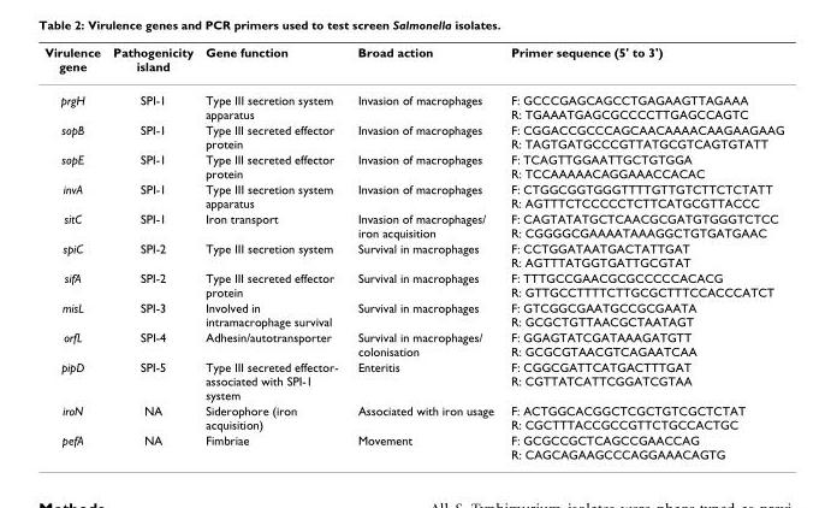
<table><thead><tr><td>Virulence gene</td><td>Pathogenicity island</td><td>Gene function</td><td>Broad action</td><td>Primer sequence (5&#x27; to 3&#x27;)</td></tr></thead><tbody><tr><td>prgH</td><td>SPI-1</td><td>Type III secretion system apparatus</td><td>Invasion of macrophages</td><td>F: GCCCGAGCAGCCTGAGAAGTTAGAAA R: TGAAATGAGCGCCCCTTGAGCCAGTC</td></tr><tr><td>sopB</td><td>SPI-1</td><td>Type III secreted effector protein</td><td>Invasion of macrophages</td><td>F: CGGACCGCCCAGCAACAAAACAAGAAGAAG R: TAGTGATGCCCGTTATGCGTCAGTGTATT</td></tr><tr><td>sopE</td><td>SPI-1</td><td>Type III secreted effector protein</td><td>Invasion of macrophages</td><td>F: TCAGTTGGAATTGCTGTGGA R: TCCAAAAACAGGAAACCACAC</td></tr><tr><td>invA</td><td>SPI-1</td><td>Type III secretion system apparatus</td><td>Invasion of macrophages</td><td>F: CTGGCGGTGGGTTTTGTTGTCTTCTCTATT R: AGTTTCTCCCCCTCTTCATGCGTTACCC</td></tr><tr><td>sitC</td><td>SPI-1</td><td>Iron transport</td><td>Invasion of macrophages/ iron acquisition</td><td>F: CAGTATATGCTCAACGCGATGTGGGTCTCC R: CGGGGCGAAAATAAAGGCTGTGATGAAC</td></tr><tr><td>spiC</td><td>SPI-2</td><td>Type III secretion system</td><td>Survival in macrophages</td><td>F: CCTGGATAATGACTATTGAT R: AGTTTATGGTGATTGCGTAT</td></tr><tr><td>sifA</td><td>SPI-2</td><td>Type III secreted effector protein</td><td>Survival in macrophages</td><td>F: TTTGCCGAACGCGCCCCCACACG R: GTTGCCTTTTCTTGCGCTTTCCACCCATCT</td></tr><tr><td>misL</td><td>SPI-3</td><td>Involved in intramacrophage survival</td><td>Survival in macrophages</td><td>F: GTCGGCGAATGCCGCGAATA R: GCGCTGTTAACGCTAATAGT</td></tr><tr><td>orfL</td><td>SPI-4</td><td>Adhesin/autotransporter</td><td>Survival in macrophages/ colonisation</td><td>F: GGAGTATCGATAAAGATGTT R: GCGCGTAACGTCAGAATCAA</td></tr><tr><td>pipD</td><td>SPI-5</td><td>Type III secreted effector- associated with SPI-1 system</td><td>Enteritis</td><td>F: CGGCGATTCATGACTTTGAT R: CGTTATCATTCGGATCGTAA</td></tr><tr><td>iroN</td><td>NA</td><td>Siderophore (iron acquisition)</td><td>Associated with iron usage</td><td>F: ACTGGCACGGCTCGCTGTCGCTCTAT R: CGCTTTACCGCCGTTCTGCCACTGC</td></tr><tr><td>pefA</td><td>NA</td><td>Fimbriae</td><td>Movement</td><td>F: GCGCCGCTCAGCCGAACCAG R: CAGCAGAAGCCCAGGAAACAGTG</td></tr></tbody></table>